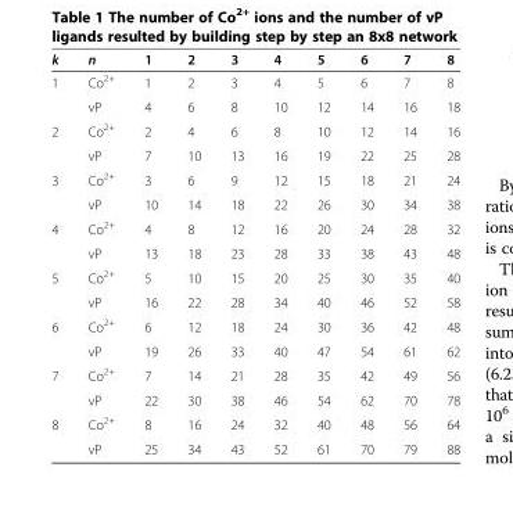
<table><thead><tr><td>k</td><td>n</td><td>1</td><td>2</td><td>3</td><td>4</td><td>5</td><td>6</td><td>7</td><td>8</td></tr></thead><tbody><tr><td rowspan="2">1</td><td>Co<sup>2+</sup></td><td>1</td><td>2</td><td>3</td><td>4</td><td>5</td><td>6</td><td>7</td><td>8</td></tr><tr><td>vP</td><td>4</td><td>6</td><td>8</td><td>10</td><td>12</td><td>14</td><td>16</td><td>18</td></tr><tr><td rowspan="2">2</td><td>Co<sup>2+</sup></td><td>2</td><td>4</td><td>6</td><td>8</td><td>10</td><td>12</td><td>14</td><td>16</td></tr><tr><td>vP</td><td>7</td><td>10</td><td>13</td><td>16</td><td>19</td><td>22</td><td>25</td><td>28</td></tr><tr><td rowspan="2">3</td><td>Co<sup>2+</sup></td><td>3</td><td>6</td><td>9</td><td>12</td><td>15</td><td>18</td><td>21</td><td>24</td></tr><tr><td>vP</td><td>10</td><td>14</td><td>18</td><td>22</td><td>26</td><td>30</td><td>34</td><td>38</td></tr><tr><td rowspan="2">4</td><td>Co<sup>2+</sup></td><td>4</td><td>8</td><td>12</td><td>16</td><td>20</td><td>24</td><td>28</td><td>32</td></tr><tr><td>vP</td><td>13</td><td>18</td><td>23</td><td>28</td><td>33</td><td>38</td><td>43</td><td>48</td></tr><tr><td rowspan="2">5</td><td>Co<sup>2+</sup></td><td>5</td><td>10</td><td>15</td><td>20</td><td>25</td><td>30</td><td>35</td><td>40</td></tr><tr><td>vP</td><td>16</td><td>22</td><td>28</td><td>34</td><td>40</td><td>46</td><td>52</td><td>58</td></tr><tr><td rowspan="2">6</td><td>Co<sup>2+</sup></td><td>6</td><td>12</td><td>18</td><td>24</td><td>30</td><td>36</td><td>42</td><td>48</td></tr><tr><td>vP</td><td>19</td><td>26</td><td>33</td><td>40</td><td>47</td><td>54</td><td>61</td><td>62</td></tr><tr><td rowspan="2">7</td><td>Co<sup>2+</sup></td><td>7</td><td>14</td><td>21</td><td>28</td><td>35</td><td>42</td><td>49</td><td>56</td></tr><tr><td>vP</td><td>22</td><td>30</td><td>38</td><td>46</td><td>54</td><td>62</td><td>70</td><td>78</td></tr><tr><td rowspan="2">8</td><td>Co<sup>2+</sup></td><td>8</td><td>16</td><td>24</td><td>32</td><td>40</td><td>48</td><td>56</td><td>64</td></tr><tr><td>vP</td><td>25</td><td>34</td><td>43</td><td>52</td><td>61</td><td>70</td><td>79</td><td>88</td></tr></tbody></table>